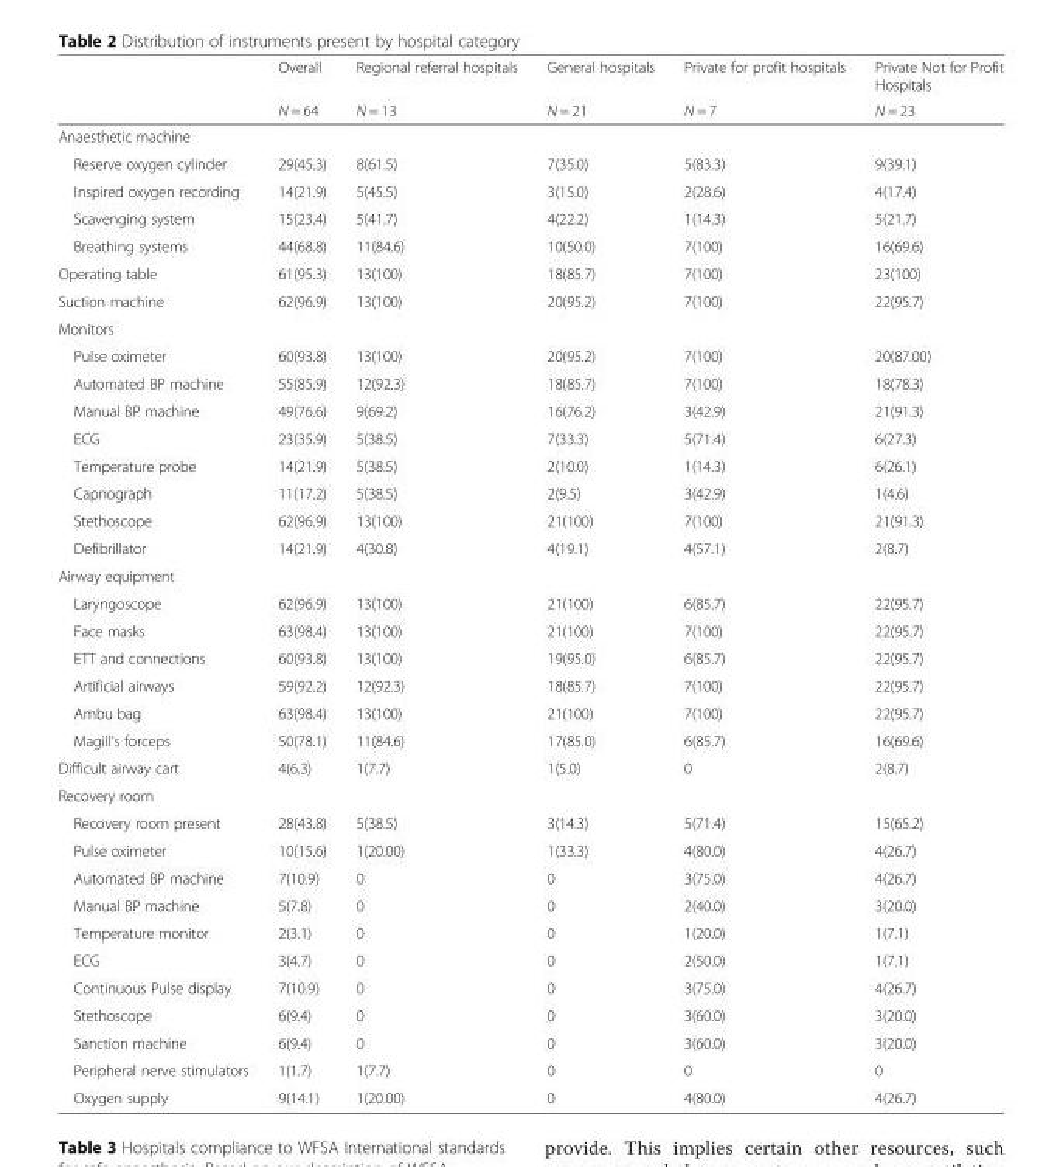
<table><thead><tr><td rowspan="2"></td><td rowspan="2">Overall N = 64</td><td rowspan="2">Regional referral hospitals N = 13</td><td rowspan="2">General hospitals N = 21</td><td rowspan="2">Private for profit hospitals N = 7</td><td rowspan="2">Private Not for Profit Hospitals N = 23</td></tr><tr></tr></thead><tbody><tr><td colspan="6">Anaesthetic machine</td></tr><tr><td>Reserve oxygen cylinder</td><td>29(45.3)</td><td>8(61.5)</td><td>7(35.0)</td><td>5(83.3)</td><td>9(39.1)</td></tr><tr><td>Inspired oxygen recording</td><td>14(21.9)</td><td>5(45.5)</td><td>3(15.0)</td><td>2(28.6)</td><td>4(17.4)</td></tr><tr><td>Scavenging system</td><td>15(23.4)</td><td>5(41.7)</td><td>4(22.2)</td><td>1(14.3)</td><td>5(21.7)</td></tr><tr><td>Breathing systems</td><td>44(68.8)</td><td>11(84.6)</td><td>10(50.0)</td><td>7(100)</td><td>16(69.6)</td></tr><tr><td>Operating table</td><td>61(95.3)</td><td>13(100)</td><td>18(85.7)</td><td>7(100)</td><td>23(100)</td></tr><tr><td>Suction machine</td><td>62(96.9)</td><td>13(100)</td><td>20(95.2)</td><td>7(100)</td><td>22(95.7)</td></tr><tr><td colspan="6">Monitors</td></tr><tr><td>Pulse oximeter</td><td>60(93.8)</td><td>13(100)</td><td>20(95.2)</td><td>7(100)</td><td>20(87.00)</td></tr><tr><td>Automated BP machine</td><td>55(85.9)</td><td>12(92.3)</td><td>18(85.7)</td><td>7(100)</td><td>18(78.3)</td></tr><tr><td>Manual BP machine</td><td>49(76.6)</td><td>9(69.2)</td><td>16(76.2)</td><td>3(42.9)</td><td>21(91.3)</td></tr><tr><td>ECG</td><td>23(35.9)</td><td>5(38.5)</td><td>7(33.3)</td><td>5(71.4)</td><td>6(27.3)</td></tr><tr><td>Temperature probe</td><td>14(21.9)</td><td>5(38.5)</td><td>2(10.0)</td><td>1(14.3)</td><td>6(26.1)</td></tr><tr><td>Capnograph</td><td>11(17.2)</td><td>5(38.5)</td><td>2(9.5)</td><td>3(42.9)</td><td>1(4.6)</td></tr><tr><td>Stethoscope</td><td>62(96.9)</td><td>13(100)</td><td>21(100)</td><td>7(100)</td><td>21(91.3)</td></tr><tr><td>Defibrillator</td><td>14(21.9)</td><td>4(30.8)</td><td>4(19.1)</td><td>4(57.1)</td><td>2(8.7)</td></tr><tr><td colspan="6">Airway equipment</td></tr><tr><td>Laryngoscope</td><td>62(96.9)</td><td>13(100)</td><td>21(100)</td><td>6(85.7)</td><td>22(95.7)</td></tr><tr><td>Face masks</td><td>63(98.4)</td><td>13(100)</td><td>21(100)</td><td>7(100)</td><td>22(95.7)</td></tr><tr><td>ETT and connections</td><td>60(93.8)</td><td>13(100)</td><td>19(95.0)</td><td>6(85.7)</td><td>22(95.7)</td></tr><tr><td>Artificial airways</td><td>59(92.2)</td><td>12(92.3)</td><td>18(85.7)</td><td>7(100)</td><td>22(95.7)</td></tr><tr><td>Ambu bag</td><td>63(98.4)</td><td>13(100)</td><td>21(100)</td><td>7(100)</td><td>22(95.7)</td></tr><tr><td>Magill’s forceps</td><td>50(78.1)</td><td>11(84.6)</td><td>17(85.0)</td><td>6(85.7)</td><td>16(69.6)</td></tr><tr><td>Difficult airway cart</td><td>4(6.3)</td><td>1(7.7)</td><td>1(5.0)</td><td>0</td><td>2(8.7)</td></tr><tr><td colspan="6">Recovery room</td></tr><tr><td>Recovery room present</td><td>28(43.8)</td><td>5(38.5)</td><td>3(14.3)</td><td>5(71.4)</td><td>15(65.2)</td></tr><tr><td>Pulse oximeter</td><td>10(15.6)</td><td>1(20.00)</td><td>1(33.3)</td><td>4(80.0)</td><td>4(26.7)</td></tr><tr><td>Automated BP machine</td><td>7(10.9)</td><td>0</td><td>0</td><td>3(75.0)</td><td>4(26.7)</td></tr><tr><td>Manual BP machine</td><td>5(7.8)</td><td>0</td><td>0</td><td>2(40.0)</td><td>3(20.0)</td></tr><tr><td>Temperature monitor</td><td>2(3.1)</td><td>0</td><td>0</td><td>1(20.0)</td><td>1(7.1)</td></tr><tr><td>ECG</td><td>3(4.7)</td><td>0</td><td>0</td><td>2(50.0)</td><td>1(7.1)</td></tr><tr><td>Continuous Pulse display</td><td>7(10.9)</td><td>0</td><td>0</td><td>3(75.0)</td><td>4(26.7)</td></tr><tr><td>Stethoscope</td><td>6(9.4)</td><td>0</td><td>0</td><td>3(60.0)</td><td>3(20.0)</td></tr><tr><td>Sanction machine</td><td>6(9.4)</td><td>0</td><td>0</td><td>3(60.0)</td><td>3(20.0)</td></tr><tr><td>Peripheral nerve stimulators</td><td>1(1.7)</td><td>1(7.7)</td><td>0</td><td>0</td><td>0</td></tr><tr><td>Oxygen supply</td><td>9(14.1)</td><td>1(20.00)</td><td>0</td><td>4(80.0)</td><td>4(26.7)</td></tr></tbody></table>